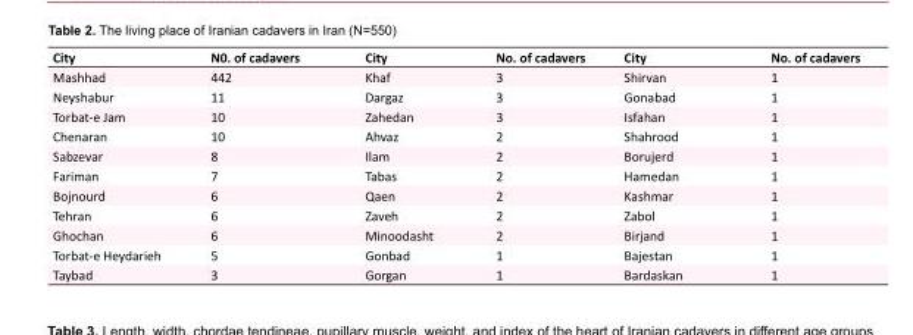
<table><tbody><tr><td>City</td><td>N0. of cadavers</td><td>City</td><td>No. of cadavers</td><td>City</td><td>No. of cadavers</td></tr><tr><td>Mashhad</td><td>442</td><td>Khaf</td><td>3</td><td>Shirvan</td><td>1</td></tr><tr><td>Neyshabur</td><td>11</td><td>Dargaz</td><td>3</td><td>Gonabad</td><td>1</td></tr><tr><td>Torbat-e Jam</td><td>10</td><td>Zahedan</td><td>3</td><td>Isfahan</td><td>1</td></tr><tr><td>Chenaran</td><td>10</td><td>Ahvaz</td><td>2</td><td>Shahrood</td><td>1</td></tr><tr><td>Sabzevar</td><td>8</td><td>Ilam</td><td>2</td><td>Borujerd</td><td>1</td></tr><tr><td>Fariman</td><td>7</td><td>Tabas</td><td>2</td><td>Hamedan</td><td>1</td></tr><tr><td>Bojnourd</td><td>6</td><td>Qaen</td><td>2</td><td>Kashmar</td><td>1</td></tr><tr><td>Tehran</td><td>6</td><td>Zaveh</td><td>2</td><td>Zabol</td><td>1</td></tr><tr><td>Ghochan</td><td>6</td><td>Minoodasht</td><td>2</td><td>Birjand</td><td>1</td></tr><tr><td>Torbat-e Heydarieh</td><td>5</td><td>Gonbad</td><td>1</td><td>Bajestan</td><td>1</td></tr><tr><td>Taybad</td><td>3</td><td>Gorgan</td><td>1</td><td>Bardaskan</td><td>1</td></tr></tbody></table>